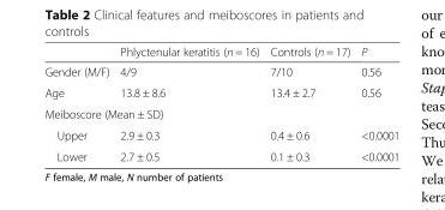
<table><thead><tr><td></td><td>Phlyctenular keratitis (n = 16)</td><td>Controls (n = 17)</td><td>P</td></tr></thead><tbody><tr><td>Gender (M/F)</td><td>4/9</td><td>7/10</td><td>0.56</td></tr><tr><td>Age</td><td>13.8 ± 8.6</td><td>13.4 ± 2.7</td><td>0.56</td></tr><tr><td colspan="4">Meiboscore (Mean ± SD)</td></tr><tr><td>Upper</td><td>2.9 ± 0.3</td><td>0.4 ± 0.6</td><td>&lt;0.0001</td></tr><tr><td>Lower</td><td>2.7 ± 0.5</td><td>0.1 ± 0.3</td><td>&lt;0.0001</td></tr></tbody></table>